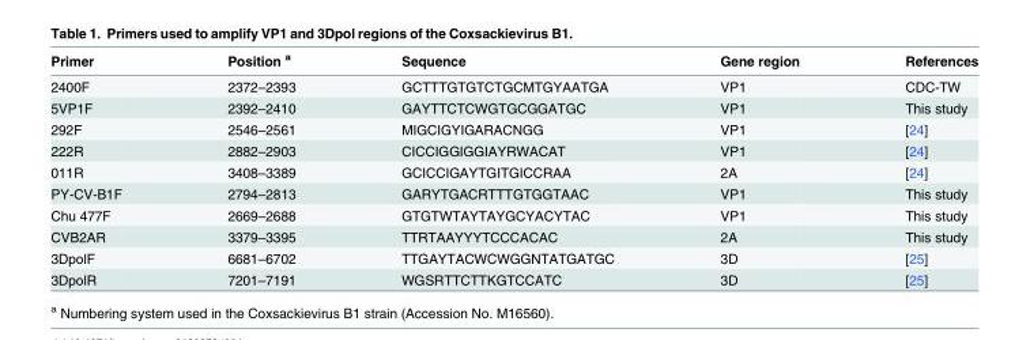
<table><thead><tr><td>Primer</td><td>Position <sup>a</sup></td><td>Sequence</td><td>Gene region</td><td>References</td></tr></thead><tbody><tr><td>2400F</td><td>2372–2393</td><td>GCTTTGTGTCTGCMTGYAATGA</td><td>VP1</td><td>CDC-TW</td></tr><tr><td>5VP1F</td><td>2392–2410</td><td>GAYTTCTCWGTGCGGATGC</td><td>VP1</td><td>This study</td></tr><tr><td>292F</td><td>2546–2561</td><td>MIGCIGYIGARACNGG</td><td>VP1</td><td>[24]</td></tr><tr><td>222R</td><td>2882–2903</td><td>CICCIGGIGGIAYRWACAT</td><td>VP1</td><td>[24]</td></tr><tr><td>011R</td><td>3408–3389</td><td>GCICCIGAYTGITGICCRAA</td><td>2A</td><td>[24]</td></tr><tr><td>PY-CV-B1F</td><td>2794–2813</td><td>GARYTGACRTTTGTGGTAAC</td><td>VP1</td><td>This study</td></tr><tr><td>Chu 477F</td><td>2669–2688</td><td>GTGTWTAYTAYGCYACYTAC</td><td>VP1</td><td>This study</td></tr><tr><td>CVB2AR</td><td>3379–3395</td><td>TTRTAAYYYTCCCACAC</td><td>2A</td><td>This study</td></tr><tr><td>3DpolF</td><td>6681–6702</td><td>TTGAYTACWCWGGNTATGATGC</td><td>3D</td><td>[25]</td></tr><tr><td>3DpolR</td><td>7201–7191</td><td>WGSRTTCTTKGTCCATC</td><td>3D</td><td>[25]</td></tr></tbody></table>